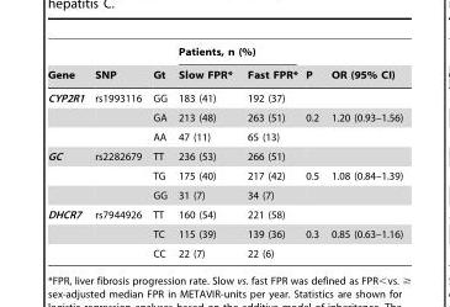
<table><thead><tr><td rowspan="2">Gene</td><td rowspan="2">SNP</td><td rowspan="2">Gt</td><td colspan="2">Patients, n (%)</td><td rowspan="2">P</td><td rowspan="2">OR (95% CI)</td></tr><tr><td>Slow FPR*</td><td>Fast FPR*</td></tr></thead><tbody><tr><td rowspan="3">CYP2R1</td><td>rs1993116</td><td>GG</td><td>183 (41)</td><td>192 (37)</td><td></td><td></td></tr><tr><td></td><td>GA</td><td>213 (48)</td><td>263 (51)</td><td>0.2</td><td>1.20 (0.93–1.56)</td></tr><tr><td></td><td>AA</td><td>47 (11)</td><td>65 (13)</td><td></td><td></td></tr><tr><td rowspan="3">GC</td><td>rs2282679</td><td>TT</td><td>236 (53)</td><td>266 (51)</td><td></td><td></td></tr><tr><td></td><td>TG</td><td>175 (40)</td><td>217 (42)</td><td>0.5</td><td>1.08 (0.84–1.39)</td></tr><tr><td></td><td>GG</td><td>31 (7)</td><td>34 (7)</td><td></td><td></td></tr><tr><td rowspan="3">DHCR7</td><td>rs7944926</td><td>TT</td><td>160 (54)</td><td>221 (58)</td><td></td><td></td></tr><tr><td></td><td>TC</td><td>115 (39)</td><td>139 (36)</td><td>0.3</td><td>0.85 (0.63–1.16)</td></tr><tr><td></td><td>CC</td><td>22 (7)</td><td>22 (6)</td><td></td><td></td></tr></tbody></table>